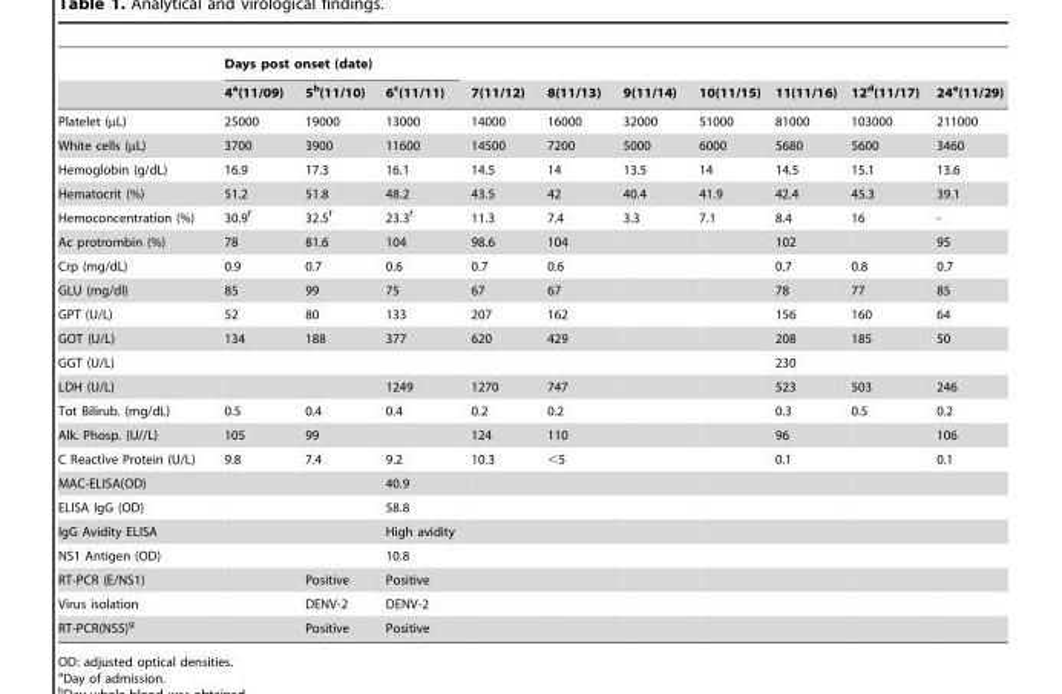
<table><thead><tr><td rowspan="2"></td><td colspan="3">Days post onset (date)</td><td rowspan="2">7(11/12)</td><td rowspan="2">8(11/13)</td><td rowspan="2">9(11/14)</td><td rowspan="2">10(11/15)</td><td rowspan="2">11(11/16)</td><td rowspan="2">12<sup>d</sup>(11/17)</td><td rowspan="2">24<sup>e</sup>(11/29)</td></tr><tr><td>4<sup>a</sup>(11/09)</td><td>5<sup>b</sup>(11/10)</td><td>6<sup>c</sup>(11/11)</td></tr></thead><tbody><tr><td>Platelet (µL)</td><td>25000</td><td>19000</td><td>13000</td><td>14000</td><td>16000</td><td>32000</td><td>51000</td><td>81000</td><td>103000</td><td>211000</td></tr><tr><td>White cells (µL)</td><td>3700</td><td>3900</td><td>11600</td><td>14500</td><td>7200</td><td>5000</td><td>6000</td><td>5680</td><td>5600</td><td>3460</td></tr><tr><td>Hemoglobin (g/dL)</td><td>16.9</td><td>17.3</td><td>16.1</td><td>14.5</td><td>14</td><td>13.5</td><td>14</td><td>14.5</td><td>15.1</td><td>13.6</td></tr><tr><td>Hematocrit (%)</td><td>51.2</td><td>51.8</td><td>48.2</td><td>43.5</td><td>42</td><td>40.4</td><td>41.9</td><td>42.4</td><td>45.3</td><td>39.1</td></tr><tr><td>Hemoconcentration (%)</td><td>30.9<sup>f</sup></td><td>32.5<sup>f</sup></td><td>23.3<sup>f</sup></td><td>11.3</td><td>7.4</td><td>3.3</td><td>7.1</td><td>8.4</td><td>16</td><td>-</td></tr><tr><td>Ac protrombin (%)</td><td>78</td><td>81.6</td><td>104</td><td>98.6</td><td>104</td><td></td><td></td><td>102</td><td></td><td>95</td></tr><tr><td>Crp (mg/dL)</td><td>0.9</td><td>0.7</td><td>0.6</td><td>0.7</td><td>0.6</td><td></td><td></td><td>0.7</td><td>0.8</td><td>0.7</td></tr><tr><td>GLU (mg/dl)</td><td>85</td><td>99</td><td>75</td><td>67</td><td>67</td><td></td><td></td><td>78</td><td>77</td><td>85</td></tr><tr><td>GPT (U/L)</td><td>52</td><td>80</td><td>133</td><td>207</td><td>162</td><td></td><td></td><td>156</td><td>160</td><td>64</td></tr><tr><td>GOT (U/L)</td><td>134</td><td>188</td><td>377</td><td>620</td><td>429</td><td></td><td></td><td>208</td><td>185</td><td>50</td></tr><tr><td>GGT (U/L)</td><td></td><td></td><td></td><td></td><td></td><td></td><td></td><td>230</td><td></td><td></td></tr><tr><td>LDH (U/L)</td><td></td><td></td><td>1249</td><td>1270</td><td>747</td><td></td><td></td><td>523</td><td>503</td><td>246</td></tr><tr><td>Tot Bilirub. (mg/dL)</td><td>0.5</td><td>0.4</td><td>0.4</td><td>0.2</td><td>0.2</td><td></td><td></td><td>0.3</td><td>0.5</td><td>0.2</td></tr><tr><td>Alk. Phosp. (U//L)</td><td>105</td><td>99</td><td></td><td>124</td><td>110</td><td></td><td></td><td>96</td><td></td><td>106</td></tr><tr><td>C Reactive Protein (U/L)</td><td>9.8</td><td>7.4</td><td>9.2</td><td>10.3</td><td>&lt;5</td><td></td><td></td><td>0.1</td><td></td><td>0.1</td></tr><tr><td>MAC-ELISA(OD)</td><td></td><td></td><td>40.9</td><td></td><td></td><td></td><td></td><td></td><td></td><td></td></tr><tr><td>ELISA IgG (OD)</td><td></td><td></td><td>58.8</td><td></td><td></td><td></td><td></td><td></td><td></td><td></td></tr><tr><td>IgG Avidity ELISA</td><td></td><td></td><td>High avidity</td><td></td><td></td><td></td><td></td><td></td><td></td><td></td></tr><tr><td>NS1 Antigen (OD)</td><td></td><td></td><td>10.8</td><td></td><td></td><td></td><td></td><td></td><td></td><td></td></tr><tr><td>RT-PCR (E/NS1)</td><td></td><td>Positive</td><td>Positive</td><td></td><td></td><td></td><td></td><td></td><td></td><td></td></tr><tr><td>Virus isolation</td><td></td><td>DENV-2</td><td>DENV-2</td><td></td><td></td><td></td><td></td><td></td><td></td><td></td></tr><tr><td>RT-PCR(NS5)<sup>g</sup></td><td></td><td>Positive</td><td>Positive</td><td></td><td></td><td></td><td></td><td></td><td></td><td></td></tr></tbody></table>